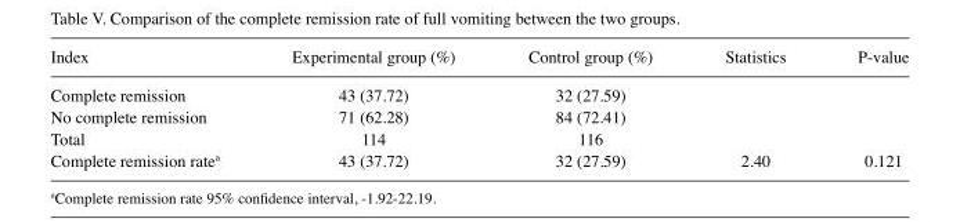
<table><thead><tr><td>Index</td><td>Experimental group (%)</td><td>Control group (%)</td><td>Statistics</td><td>P-value</td></tr></thead><tbody><tr><td>Complete remission</td><td>43 (37.72)</td><td>32 (27.59)</td><td></td><td></td></tr><tr><td>No complete remission</td><td>71 (62.28)</td><td>84 (72.41)</td><td></td><td></td></tr><tr><td>Total</td><td>114</td><td>116</td><td></td><td></td></tr><tr><td>Complete remission rate<sup>a</sup></td><td>43 (37.72)</td><td>32 (27.59)</td><td>2.40</td><td>0.121</td></tr></tbody></table>